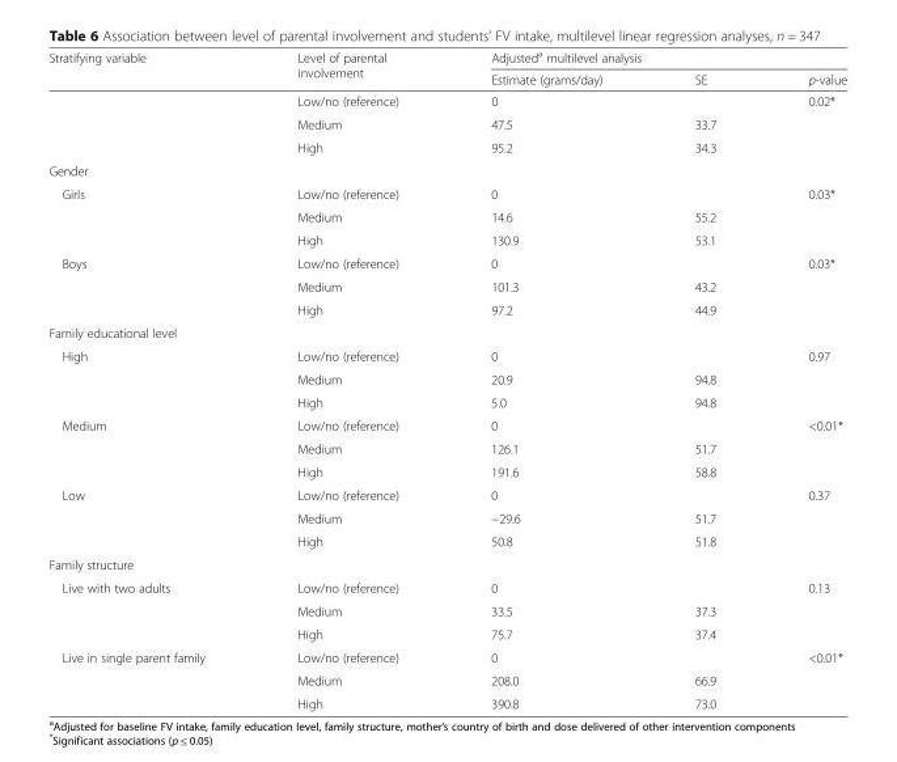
<table><thead><tr><td rowspan="2">Stratifying variable</td><td rowspan="2">Level of parental involvement</td><td colspan="3">Adjusted<sup>a</sup> multilevel analysis</td></tr><tr><td>Estimate (grams/day)</td><td>SE</td><td>p-value</td></tr></thead><tbody><tr><td></td><td>Low/no (reference)</td><td>0</td><td></td><td>0.02*</td></tr><tr><td></td><td>Medium</td><td>47.5</td><td>33.7</td><td></td></tr><tr><td></td><td>High</td><td>95.2</td><td>34.3</td><td></td></tr><tr><td colspan="5">Gender</td></tr><tr><td rowspan="3">Girls</td><td>Low/no (reference)</td><td>0</td><td></td><td rowspan="3">0.03*</td></tr><tr><td>Medium</td><td>14.6</td><td>55.2</td></tr><tr><td>High</td><td>130.9</td><td>53.1</td></tr><tr><td rowspan="3">Boys</td><td>Low/no (reference)</td><td>0</td><td></td><td rowspan="3">0.03*</td></tr><tr><td>Medium</td><td>101.3</td><td>43.2</td></tr><tr><td>High</td><td>97.2</td><td>44.9</td></tr><tr><td colspan="5">Family educational level</td></tr><tr><td rowspan="3">High</td><td>Low/no (reference)</td><td>0</td><td></td><td rowspan="3">0.97</td></tr><tr><td>Medium</td><td>20.9</td><td>94.8</td></tr><tr><td>High</td><td>5.0</td><td>94.8</td></tr><tr><td rowspan="3">Medium</td><td>Low/no (reference)</td><td>0</td><td></td><td rowspan="3">&lt;0.01*</td></tr><tr><td>Medium</td><td>126.1</td><td>51.7</td></tr><tr><td>High</td><td>191.6</td><td>58.8</td></tr><tr><td rowspan="3">Low</td><td>Low/no (reference)</td><td>0</td><td></td><td rowspan="3">0.37</td></tr><tr><td>Medium</td><td>−29.6</td><td>51.7</td></tr><tr><td>High</td><td>50.8</td><td>51.8</td></tr><tr><td colspan="5">Family structure</td></tr><tr><td rowspan="3">Live with two adults</td><td>Low/no (reference)</td><td>0</td><td></td><td rowspan="3">0.13</td></tr><tr><td>Medium</td><td>33.5</td><td>37.3</td></tr><tr><td>High</td><td>75.7</td><td>37.4</td></tr><tr><td rowspan="3">Live in single parent family</td><td>Low/no (reference)</td><td>0</td><td></td><td rowspan="3">&lt;0.01*</td></tr><tr><td>Medium</td><td>208.0</td><td>66.9</td></tr><tr><td>High</td><td>390.8</td><td>73.0</td></tr></tbody></table>